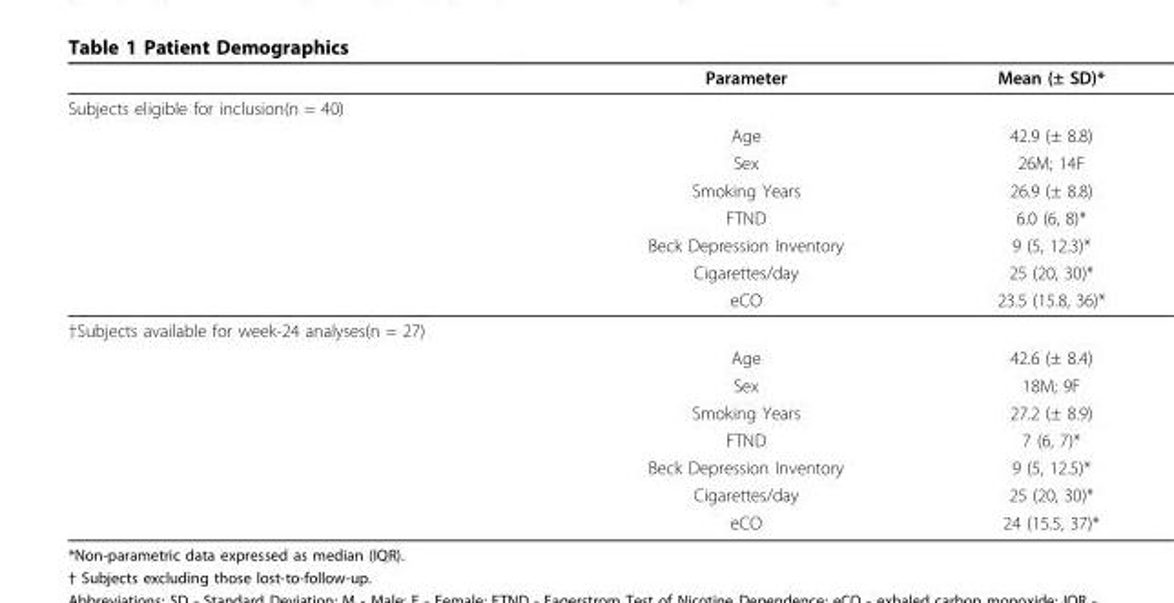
<table><thead><tr><td></td><td>Parameter</td><td>Mean (± SD)*</td></tr></thead><tbody><tr><td colspan="3">Subjects eligible for inclusion(n = 40)</td></tr><tr><td></td><td>Age</td><td>42.9 (± 8.8)</td></tr><tr><td></td><td>Sex</td><td>26M; 14F</td></tr><tr><td></td><td>Smoking Years</td><td>26.9 (± 8.8)</td></tr><tr><td></td><td>FTND</td><td>6.0 (6, 8)*</td></tr><tr><td></td><td>Beck Depression Inventory</td><td>9 (5, 12.3)*</td></tr><tr><td></td><td>Cigarettes/day</td><td>25 (20, 30)*</td></tr><tr><td></td><td>eCO</td><td>23.5 (15.8, 36)*</td></tr><tr><td colspan="3">†Subjects available for week-24 analyses(n = 27)</td></tr><tr><td></td><td>Age</td><td>42.6 (± 8.4)</td></tr><tr><td></td><td>Sex</td><td>18M; 9F</td></tr><tr><td></td><td>Smoking Years</td><td>27.2 (± 8.9)</td></tr><tr><td></td><td>FTND</td><td>7 (6, 7)*</td></tr><tr><td></td><td>Beck Depression Inventory</td><td>9 (5, 12.5)*</td></tr><tr><td></td><td>Cigarettes/day</td><td>25 (20, 30)*</td></tr><tr><td></td><td>eCO</td><td>24 (15.5, 37)*</td></tr></tbody></table>